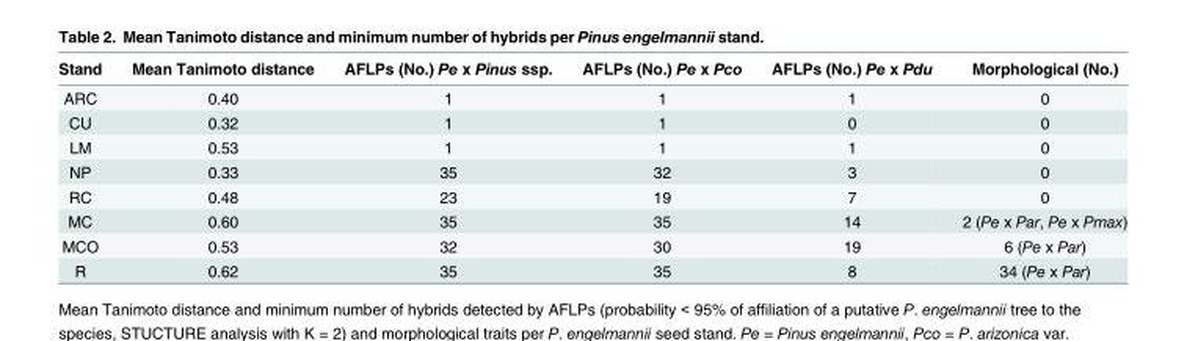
<table><thead><tr><td>Stand</td><td>Mean Tanimoto distance</td><td>AFLPs (No.) Pe x Pinus ssp.</td><td>AFLPs (No.) Pe x Pco</td><td>AFLPs (No.) Pe x Pdu</td><td>Morphological (No.)</td></tr></thead><tbody><tr><td>ARC</td><td>0.40</td><td>1</td><td>1</td><td>1</td><td>0</td></tr><tr><td>CU</td><td>0.32</td><td>1</td><td>1</td><td>0</td><td>0</td></tr><tr><td>LM</td><td>0.53</td><td>1</td><td>1</td><td>1</td><td>0</td></tr><tr><td>NP</td><td>0.33</td><td>35</td><td>32</td><td>3</td><td>0</td></tr><tr><td>RC</td><td>0.48</td><td>23</td><td>19</td><td>7</td><td>0</td></tr><tr><td>MC</td><td>0.60</td><td>35</td><td>35</td><td>14</td><td>2 (Pe x Par, Pe x Pmax)</td></tr><tr><td>MCO</td><td>0.53</td><td>32</td><td>30</td><td>19</td><td>6 (Pe x Par)</td></tr><tr><td>R</td><td>0.62</td><td>35</td><td>35</td><td>8</td><td>34 (Pe x Par)</td></tr></tbody></table>